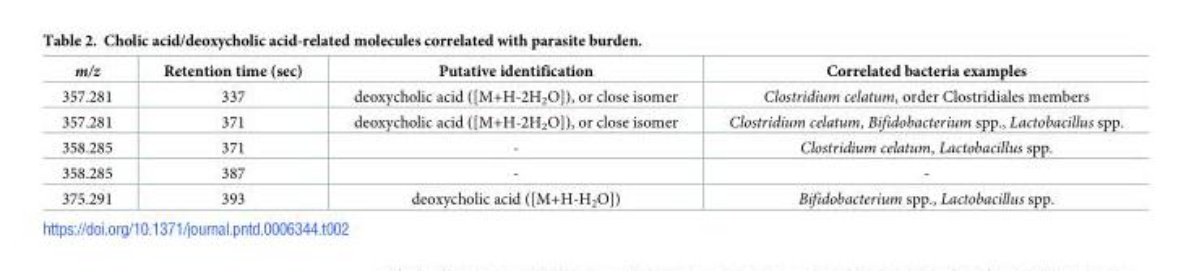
<table><thead><tr><td>m/z</td><td>Retention time (sec)</td><td>Putative identification</td><td>Correlated bacteria examples</td></tr></thead><tbody><tr><td>357.281</td><td>337</td><td>deoxycholic acid ([M+H-2H<sub>2</sub>O]), or close isomer</td><td>Clostridium celatum, order Clostridiales members</td></tr><tr><td>357.281</td><td>371</td><td>deoxycholic acid ([M+H-2H<sub>2</sub>O]), or close isomer</td><td>Clostridium celatum, Bifidobacterium spp., Lactobacillus spp.</td></tr><tr><td>358.285</td><td>371</td><td>-</td><td>Clostridium celatum, Lactobacillus spp.</td></tr><tr><td>358.285</td><td>387</td><td>-</td><td>-</td></tr><tr><td>375.291</td><td>393</td><td>deoxycholic acid ([M+H-H<sub>2</sub>O])</td><td>Bifidobacterium spp., Lactobacillus spp.</td></tr></tbody></table>